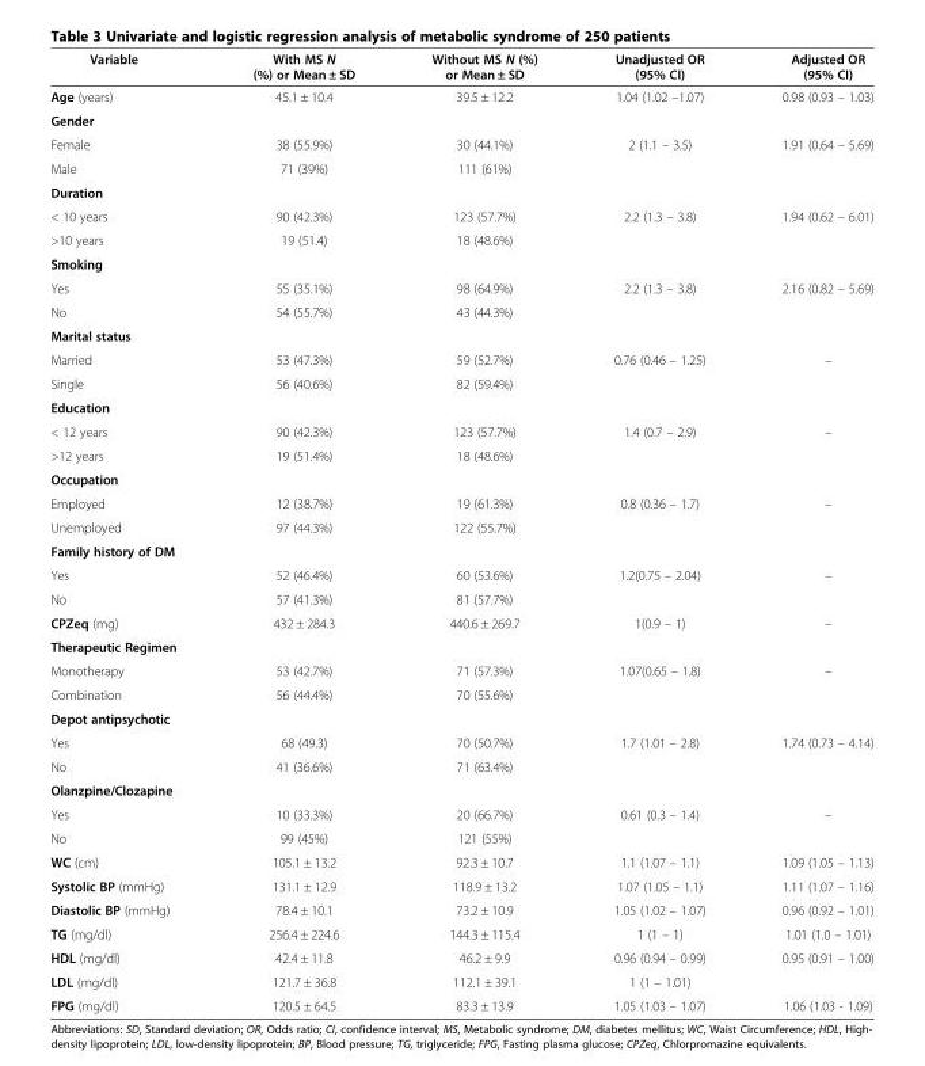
<table><thead><tr><td>Variable</td><td>With MS N (%) or Mean ± SD</td><td>Without MS N (%) or Mean ± SD</td><td>Unadjusted OR (95% CI)</td><td>Adjusted OR (95% CI)</td></tr></thead><tbody><tr><td>Age (years)</td><td>45.1 ± 10.4</td><td>39.5 ± 12.2</td><td>1.04 (1.02 –1.07)</td><td>0.98 (0.93 – 1.03)</td></tr><tr><td colspan="5">Gender</td></tr><tr><td>Female</td><td>38 (55.9%)</td><td>30 (44.1%)</td><td rowspan="2">2 (1.1 – 3.5)</td><td rowspan="2">1.91 (0.64 – 5.69)</td></tr><tr><td>Male</td><td>71 (39%)</td><td>111 (61%)</td></tr><tr><td colspan="5">Duration</td></tr><tr><td>&lt; 10 years</td><td>90 (42.3%)</td><td>123 (57.7%)</td><td rowspan="2">2.2 (1.3 – 3.8)</td><td rowspan="2">1.94 (0.62 – 6.01)</td></tr><tr><td>&gt;10 years</td><td>19 (51.4)</td><td>18 (48.6%)</td></tr><tr><td colspan="5">Smoking</td></tr><tr><td>Yes</td><td>55 (35.1%)</td><td>98 (64.9%)</td><td>2.2 (1.3 – 3.8)</td><td>2.16 (0.82 – 5.69)</td></tr><tr><td>No</td><td>54 (55.7%)</td><td>43 (44.3%)</td><td></td><td></td></tr><tr><td colspan="5">Marital status</td></tr><tr><td>Married</td><td>53 (47.3%)</td><td>59 (52.7%)</td><td rowspan="2">0.76 (0.46 – 1.25)</td><td rowspan="2">–</td></tr><tr><td>Single</td><td>56 (40.6%)</td><td>82 (59.4%)</td></tr><tr><td colspan="5">Education</td></tr><tr><td>&lt; 12 years</td><td>90 (42.3%)</td><td>123 (57.7%)</td><td rowspan="2">1.4 (0.7 – 2.9)</td><td rowspan="2">–</td></tr><tr><td>&gt;12 years</td><td>19 (51.4%)</td><td>18 (48.6%)</td></tr><tr><td colspan="5">Occupation</td></tr><tr><td>Employed</td><td>12 (38.7%)</td><td>19 (61.3%)</td><td rowspan="2">0.8 (0.36 – 1.7)</td><td rowspan="2">–</td></tr><tr><td>Unemployed</td><td>97 (44.3%)</td><td>122 (55.7%)</td></tr><tr><td colspan="5">Family history of DM</td></tr><tr><td>Yes</td><td>52 (46.4%)</td><td>60 (53.6%)</td><td rowspan="2">1.2(0.75 – 2.04)</td><td rowspan="2">–</td></tr><tr><td>No</td><td>57 (41.3%)</td><td>81 (57.7%)</td></tr><tr><td>CPZeq (mg)</td><td>432 ± 284.3</td><td>440.6 ± 269.7</td><td>1(0.9 – 1)</td><td>–</td></tr><tr><td colspan="5">Therapeutic Regimen</td></tr><tr><td>Monotherapy</td><td>53 (42.7%)</td><td>71 (57.3%)</td><td rowspan="2">1.07(0.65 – 1.8)</td><td rowspan="2">–</td></tr><tr><td>Combination</td><td>56 (44.4%)</td><td>70 (55.6%)</td></tr><tr><td colspan="5">Depot antipsychotic</td></tr><tr><td>Yes</td><td>68 (49.3)</td><td>70 (50.7%)</td><td rowspan="2">1.7 (1.01 – 2.8)</td><td rowspan="2">1.74 (0.73 – 4.14)</td></tr><tr><td>No</td><td>41 (36.6%)</td><td>71 (63.4%)</td></tr><tr><td colspan="5">Olanzpine/Clozapine</td></tr><tr><td>Yes</td><td>10 (33.3%)</td><td>20 (66.7%)</td><td rowspan="2">0.61 (0.3 – 1.4)</td><td rowspan="2">–</td></tr><tr><td>No</td><td>99 (45%)</td><td>121 (55%)</td></tr><tr><td>WC (cm)</td><td>105.1 ± 13.2</td><td>92.3 ± 10.7</td><td>1.1 (1.07 – 1.1)</td><td>1.09 (1.05 – 1.13)</td></tr><tr><td>Systolic BP (mmHg)</td><td>131.1 ± 12.9</td><td>118.9 ± 13.2</td><td>1.07 (1.05 – 1.1)</td><td>1.11 (1.07 – 1.16)</td></tr><tr><td>Diastolic BP (mmHg)</td><td>78.4 ± 10.1</td><td>73.2 ± 10.9</td><td>1.05 (1.02 – 1.07)</td><td>0.96 (0.92 – 1.01)</td></tr><tr><td>TG (mg/dl)</td><td>256.4 ± 224.6</td><td>144.3 ± 115.4</td><td>1 (1 – 1)</td><td>1.01 (1.0 – 1.01)</td></tr><tr><td>HDL (mg/dl)</td><td>42.4 ± 11.8</td><td>46.2 ± 9.9</td><td>0.96 (0.94 – 0.99)</td><td>0.95 (0.91 – 1.00)</td></tr><tr><td>LDL (mg/dl)</td><td>121.7 ± 36.8</td><td>112.1 ± 39.1</td><td>1 (1 – 1.01)</td><td></td></tr><tr><td>FPG (mg/dl)</td><td>120.5 ± 64.5</td><td>83.3 ± 13.9</td><td>1.05 (1.03 – 1.07)</td><td>1.06 (1.03 - 1.09)</td></tr></tbody></table>